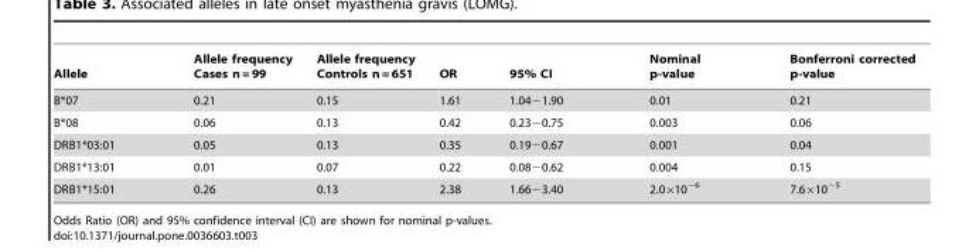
<table><thead><tr><td>Allele</td><td>Allele frequency Cases n = 99</td><td>Allele frequency Controls n = 651</td><td>OR</td><td>95% CI</td><td>Nominal p-value</td><td>Bonferroni corrected p-value</td></tr></thead><tbody><tr><td>B*07</td><td>0.21</td><td>0.15</td><td>1.61</td><td>1.04−1.90</td><td>0.01</td><td>0.21</td></tr><tr><td>B*08</td><td>0.06</td><td>0.13</td><td>0.42</td><td>0.23−0.75</td><td>0.003</td><td>0.06</td></tr><tr><td>DRB1*03:01</td><td>0.05</td><td>0.13</td><td>0.35</td><td>0.19−0.67</td><td>0.001</td><td>0.04</td></tr><tr><td>DRB1*13:01</td><td>0.01</td><td>0.07</td><td>0.22</td><td>0.08−0.62</td><td>0.004</td><td>0.15</td></tr><tr><td>DRB1*15:01</td><td>0.26</td><td>0.13</td><td>2.38</td><td>1.66−3.40</td><td>2.0×10<sup>−6</sup></td><td>7.6×10<sup>−5</sup></td></tr></tbody></table>